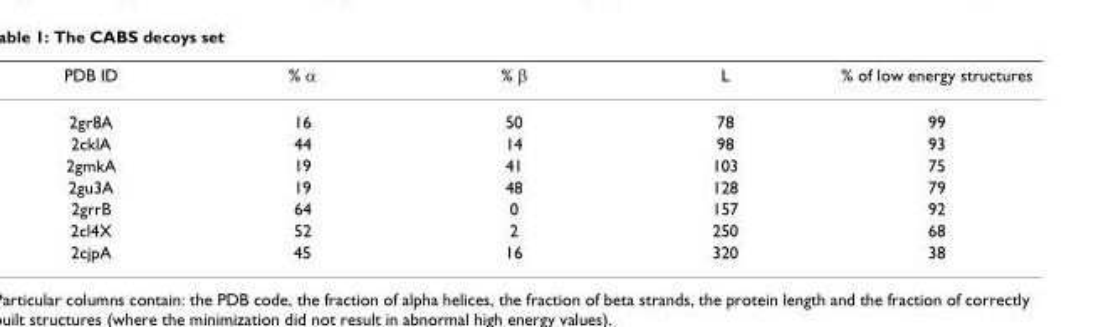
<table><thead><tr><td>PDB ID</td><td>% α</td><td>% β</td><td>L</td><td>% of low energy structures</td></tr></thead><tbody><tr><td>2gr8A</td><td>16</td><td>50</td><td>78</td><td>99</td></tr><tr><td>2cklA</td><td>44</td><td>14</td><td>98</td><td>93</td></tr><tr><td>2gmkA</td><td>19</td><td>41</td><td>103</td><td>75</td></tr><tr><td>2gu3A</td><td>19</td><td>48</td><td>128</td><td>79</td></tr><tr><td>2grrB</td><td>64</td><td>0</td><td>157</td><td>92</td></tr><tr><td>2cl4X</td><td>52</td><td>2</td><td>250</td><td>68</td></tr><tr><td>2cjpA</td><td>45</td><td>16</td><td>320</td><td>38</td></tr></tbody></table>